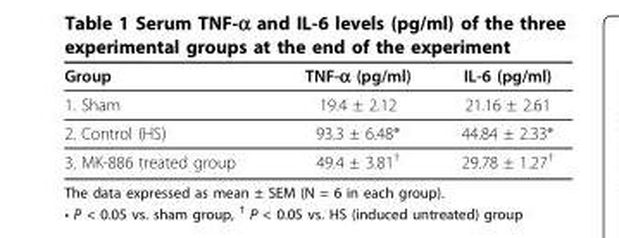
<table><thead><tr><td>Group</td><td>TNF-α (pg/ml)</td><td>IL-6 (pg/ml)</td></tr></thead><tbody><tr><td>1. Sham</td><td>19.4 ± 2.12</td><td>21.16 ± 2.61</td></tr><tr><td>2. Control (HS)</td><td>93.3 ± 6.48*</td><td>44.84 ± 2.33*</td></tr><tr><td>3. MK-886 treated group</td><td>49.4 ± 3.81<sup>†</sup></td><td>29.78 ± 1.27<sup>†</sup></td></tr></tbody></table>